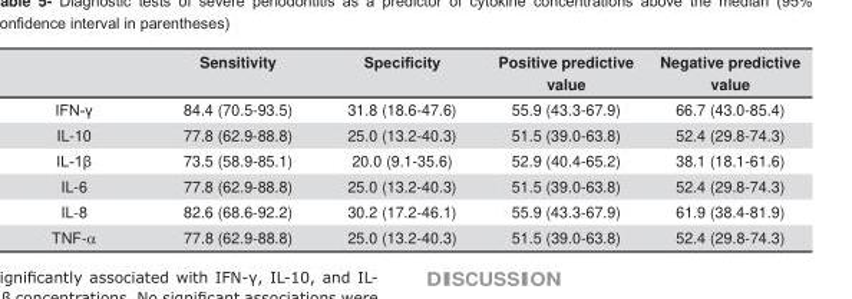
<table><thead><tr><td></td><td>Sensitivity</td><td>����������</td><td>Positive predictive value</td><td>Negative predictive value</td></tr></thead><tbody><tr><td>IFN-γ</td><td>84.4 (70.5-93.5)</td><td>31.8 (18.6-47.6)</td><td>55.9 (43.3-67.9)</td><td>66.7 (43.0-85.4)</td></tr><tr><td>IL-10</td><td>77.8 (62.9-88.8)</td><td>25.0 (13.2-40.3)</td><td>51.5 (39.0-63.8)</td><td>52.4 (29.8-74.3)</td></tr><tr><td>IL-1β</td><td>73.5 (58.9-85.1)</td><td>20.0 (9.1-35.6)</td><td>52.9 (40.4-65.2)</td><td>38.1 (18.1-61.6)</td></tr><tr><td>IL-6</td><td>77.8 (62.9-88.8)</td><td>25.0 (13.2-40.3)</td><td>51.5 (39.0-63.8)</td><td>52.4 (29.8-74.3)</td></tr><tr><td>IL-8</td><td>82.6 (68.6-92.2)</td><td>30.2 (17.2-46.1)</td><td>55.9 (43.3-67.9)</td><td>61.9 (38.4-81.9)</td></tr><tr><td>TNF-α</td><td>77.8 (62.9-88.8)</td><td>25.0 (13.2-40.3)</td><td>51.5 (39.0-63.8)</td><td>52.4 (29.8-74.3)</td></tr></tbody></table>